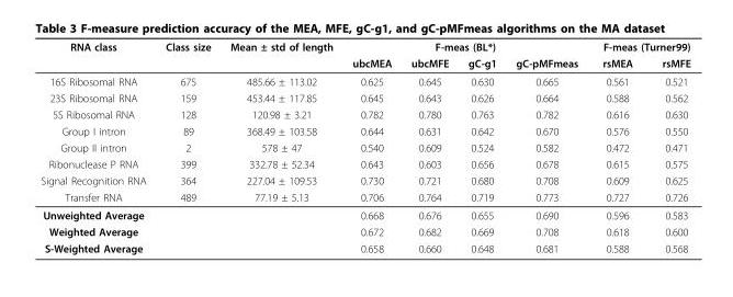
<table><thead><tr><td rowspan="2">RNA class</td><td rowspan="2">Class size</td><td rowspan="2">Mean ± std of length</td><td colspan="4">F-meas (BL*)</td><td colspan="2">F-meas (Turner99)</td></tr><tr><td>ubcMEA</td><td>ubcMFE</td><td>gC-g1</td><td>gC-pMFmeas</td><td>rsMEA</td><td>rsMFE</td></tr></thead><tbody><tr><td>16S Ribosomal RNA</td><td>675</td><td>485.66 ± 113.02</td><td>0.625</td><td>0.645</td><td>0.630</td><td>0.665</td><td>0.561</td><td>0.521</td></tr><tr><td>23S Ribosomal RNA</td><td>159</td><td>453.44 ± 117.85</td><td>0.645</td><td>0.643</td><td>0.626</td><td>0.664</td><td>0.588</td><td>0.562</td></tr><tr><td>5S Ribosomal RNA</td><td>128</td><td>120.98 ± 3.21</td><td>0.782</td><td>0.780</td><td>0.763</td><td>0.782</td><td>0.616</td><td>0.630</td></tr><tr><td>Group I intron</td><td>89</td><td>368.49 ± 103.58</td><td>0.644</td><td>0.631</td><td>0.642</td><td>0.670</td><td>0.576</td><td>0.550</td></tr><tr><td>Group II intron</td><td>2</td><td>578 ± 47</td><td>0.540</td><td>0.609</td><td>0.524</td><td>0.582</td><td>0.472</td><td>0.471</td></tr><tr><td>Ribonuclease P RNA</td><td>399</td><td>332.78 ± 52.34</td><td>0.643</td><td>0.603</td><td>0.656</td><td>0.678</td><td>0.615</td><td>0.575</td></tr><tr><td>Signal Recognition RNA</td><td>364</td><td>227.04 ± 109.53</td><td>0.730</td><td>0.721</td><td>0.680</td><td>0.708</td><td>0.609</td><td>0.625</td></tr><tr><td>Transfer RNA</td><td>489</td><td>77.19 ± 5.13</td><td>0.706</td><td>0.764</td><td>0.719</td><td>0.773</td><td>0.727</td><td>0.726</td></tr><tr><td>Unweighted Average</td><td></td><td></td><td>0.668</td><td>0.676</td><td>0.655</td><td>0.690</td><td>0.596</td><td>0.583</td></tr><tr><td>Weighted Average</td><td></td><td></td><td>0.672</td><td>0.682</td><td>0.669</td><td>0.708</td><td>0.618</td><td>0.600</td></tr><tr><td>S-Weighted Average</td><td></td><td></td><td>0.658</td><td>0.660</td><td>0.648</td><td>0.681</td><td>0.588</td><td>0.568</td></tr></tbody></table>